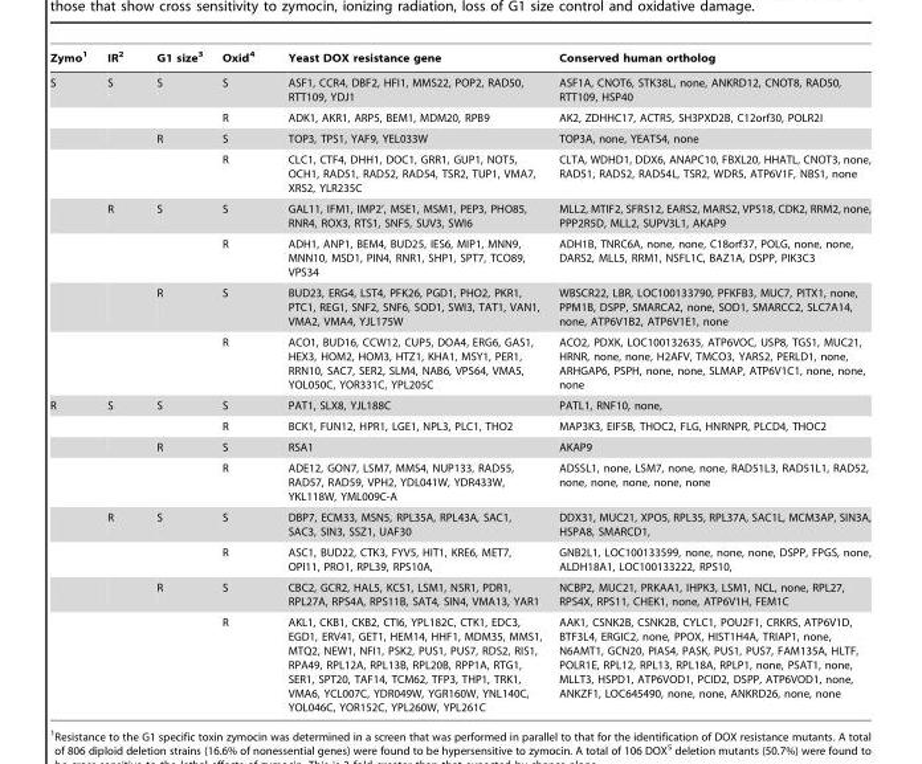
<table><thead><tr><td>Zymo<sup>1</sup></td><td>IR<sup>2</sup></td><td>G1 size<sup>3</sup></td><td>Oxid<sup>4</sup></td><td>Yeast DOX resistance gene</td><td>Conserved human ortholog</td></tr></thead><tbody><tr><td rowspan="8">S</td><td>S</td><td>S</td><td>S</td><td>ASF1, CCR4, DBF2, HFI1, MMS22, POP2, RAD50, RTT109, YDJ1</td><td>ASF1A, CNOT6, STK38L, none, ANKRD12, CNOT8, RAD50, RTT109, HSP40</td></tr><tr><td></td><td></td><td>R</td><td>ADK1, AKR1, ARP5, BEM1, MDM20, RPB9</td><td>AK2, ZDHHC17, ACTR5, SH3PXD2B, C12orf30, POLR2I</td></tr><tr><td></td><td>R</td><td>S</td><td>TOP3, TPS1, YAF9, YEL033W</td><td>TOP3A, none, YEATS4, none</td></tr><tr><td></td><td></td><td>R</td><td>CLC1, CTF4, DHH1, DOC1, GRR1, GUP1, NOT5, OCH1, RAD51, RAD52, RAD54, TSR2, TUP1, VMA7, XRS2, YLR235C</td><td>CLTA, WDHD1, DDX6, ANAPC10, FBXL20, HHATL, CNOT3, none, RAD51, RAD52, RAD54L, TSR2, WDR5, ATP6V1F, NBS1, none</td></tr><tr><td>R</td><td>S</td><td>S</td><td>GAL11, IFM1, IMP2’, MSE1, MSM1, PEP3, PHO85, RNR4, ROX3, RTS1, SNF5, SUV3, SWI6</td><td>MLL2, MTIF2, SFRS12, EARS2, MARS2, VPS18, CDK2, RRM2, none, PPP2R5D, MLL2, SUPV3L1, AKAP9</td></tr><tr><td></td><td></td><td>R</td><td>ADH1, ANP1, BEM4, BUD25, IES6, MIP1, MNN9, MNN10, MSD1, PIN4, RNR1, SHP1, SPT7, TCO89, VPS34</td><td>ADH1B, TNRC6A, none, none, C18orf37, POLG, none, none, DARS2, MLL5, RRM1, NSFL1C, BAZ1A, DSPP, PIK3C3</td></tr><tr><td></td><td>R</td><td>S</td><td>BUD23, ERG4, LST4, PFK26, PGD1, PHO2, PKR1, PTC1, REG1, SNF2, SNF6, SOD1, SWI3, TAT1, VAN1, VMA2, VMA4, YJL175W</td><td>WBSCR22, LBR, LOC100133790, PFKFB3, MUC7, PITX1, none, PPM1B, DSPP, SMARCA2, none, SOD1, SMARCC2, SLC7A14, none, ATP6V1B2, ATP6V1E1, none</td></tr><tr><td></td><td></td><td>R</td><td>ACO1, BUD16, CCW12, CUP5, DOA4, ERG6, GAS1, HEX3, HOM2, HOM3, HTZ1, KHA1, MSY1, PER1, RRN10, SAC7, SER2, SLM4, NAB6, VPS64, VMA5, YOL050C, YOR331C, YPL205C</td><td>ACO2, PDXK, LOC100132635, ATP6VOC, USP8, TGS1, MUC21, HRNR, none, none, H2AFV, TMCO3, YARS2, PERLD1, none, ARHGAP6, PSPH, none, none, SLMAP, ATP6V1C1, none, none, none</td></tr><tr><td rowspan="8">R</td><td>S</td><td>S</td><td>S</td><td>PAT1, SLX8, YJL188C</td><td>PATL1, RNF10, none,</td></tr><tr><td></td><td></td><td>R</td><td>BCK1, FUN12, HPR1, LGE1, NPL3, PLC1, THO2</td><td>MAP3K3, EIF5B, THOC2, FLG, HNRNPR, PLCD4, THOC2</td></tr><tr><td></td><td>R</td><td>S</td><td>RSA1</td><td>AKAP9</td></tr><tr><td></td><td></td><td>R</td><td>ADE12, GON7, LSM7, MMS4, NUP133, RAD55, RAD57, RAD59, VPH2, YDL041W, YDR433W, YKL118W, YML009C-A</td><td>ADSSL1, none, LSM7, none, none, RAD51L3, RAD51L1, RAD52, none, none, none, none, none</td></tr><tr><td>R</td><td>S</td><td>S</td><td>DBP7, ECM33, MSN5, RPL35A, RPL43A, SAC1, SAC3, SIN3, SSZ1, UAF30</td><td>DDX31, MUC21, XPO5, RPL35, RPL37A, SAC1L, MCM3AP, SIN3A, HSPA8, SMARCD1,</td></tr><tr><td></td><td></td><td>R</td><td>ASC1, BUD22, CTK3, FYV5, HIT1, KRE6, MET7, OPI11, PRO1, RPL39, RPS10A,</td><td>GNB2L1, LOC100133599, none, none, none, DSPP, FPGS, none, ALDH18A1, LOC100133222, RPS10,</td></tr><tr><td></td><td>R</td><td>S</td><td>CBC2, GCR2, HAL5, KCS1, LSM1, NSR1, PDR1, RPL27A, RPS4A, RPS11B, SAT4, SIN4, VMA13, YAR1</td><td>NCBP2, MUC21, PRKAA1, IHPK3, LSM1, NCL, none, RPL27, RPS4X, RPS11, CHEK1, none, ATP6V1H, FEM1C</td></tr><tr><td></td><td></td><td>R</td><td>AKL1, CKB1, CKB2, CTI6, YPL182C, CTK1, EDC3, EGD1, ERV41, GET1, HEM14, HHF1, MDM35, MMS1, MTQ2, NEW1, NFI1, PSK2, PUS1, PUS7, RDS2, RIS1, RPA49, RPL12A, RPL13B, RPL20B, RPP1A, RTG1, SER1, SPT20, TAF14, TCM62, TFP3, THP1, TRK1, VMA6, YCL007C, YDR049W, YGR160W, YNL140C, YOL046C, YOR152C, YPL260W, YPL261C</td><td>AAK1, CSNK2B, CSNK2B, CYLC1, POU2F1, CRKRS, ATP6V1D, BTF3L4, ERGIC2, none, PPOX, HIST1H4A, TRIAP1, none, N6AMT1, GCN20, PIAS4, PASK, PUS1, PUS7, FAM135A, HLTF, POLR1E, RPL12, RPL13, RPL18A, RPLP1, none, PSAT1, none, MLLT3, HSPD1, ATP6VOD1, PCID2, DSPP, ATP6VOD1, none, ANKZF1, LOC645490, none, none, ANKRD26, none, none</td></tr></tbody></table>